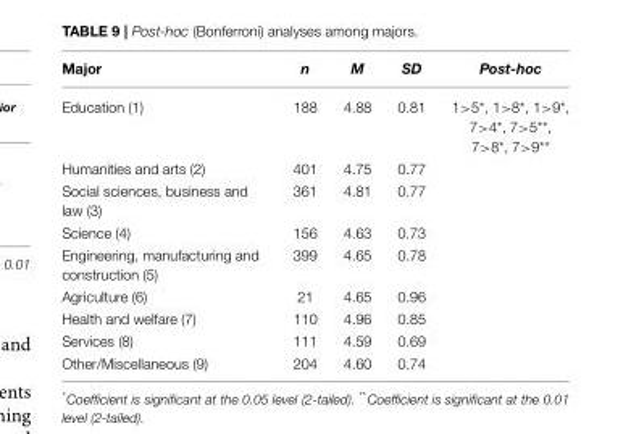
<table><thead><tr><td>Major</td><td>n</td><td>M</td><td>SD</td><td>Post-hoc</td></tr></thead><tbody><tr><td>Education (1)</td><td>188</td><td>4.88</td><td>0.81</td><td>1&gt;5*, 1&gt;8*, 1&gt;9*, 7&gt;4*, 7&gt;5**, 7&gt;8*, 7&gt;9**</td></tr><tr><td>Humanities and arts (2)</td><td>401</td><td>4.75</td><td>0.77</td><td></td></tr><tr><td>Social sciences, business and law (3)</td><td>361</td><td>4.81</td><td>0.77</td><td></td></tr><tr><td>Science (4)</td><td>156</td><td>4.63</td><td>0.73</td><td></td></tr><tr><td>Engineering, manufacturing and construction (5)</td><td>399</td><td>4.65</td><td>0.78</td><td></td></tr><tr><td>Agriculture (6)</td><td>21</td><td>4.65</td><td>0.96</td><td></td></tr><tr><td>Health and welfare (7)</td><td>110</td><td>4.96</td><td>0.85</td><td></td></tr><tr><td>Services (8)</td><td>111</td><td>4.59</td><td>0.69</td><td></td></tr><tr><td>Other/Miscellaneous (9)</td><td>204</td><td>4.60</td><td>0.74</td><td></td></tr></tbody></table>